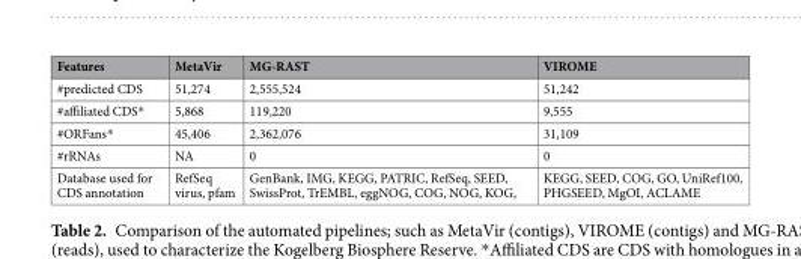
<table><thead><tr><td>Features</td><td>MetaVir</td><td>MG-RAST</td><td>VIROME</td></tr></thead><tbody><tr><td>#predicted CDS</td><td>51,274</td><td>2,555,524</td><td>51,242</td></tr><tr><td>#affiliated CDS*</td><td>5,868</td><td>119,220</td><td>9,555</td></tr><tr><td>#ORFans*</td><td>45,406</td><td>2,362,076</td><td>31,109</td></tr><tr><td>#rRNAs</td><td>NA</td><td>0</td><td>0</td></tr><tr><td>Database used for CDS annotation</td><td>RefSeq virus, pfam</td><td>GenBank, IMG, KEGG, PATRIC, RefSeq, SEED, SwissProt, TrEMBL, eggNOG, COG, NOG, KOG,</td><td>KEGG, SEED, COG, GO, UniRef100, PHGSEED, MgOI, ACLAME</td></tr></tbody></table>